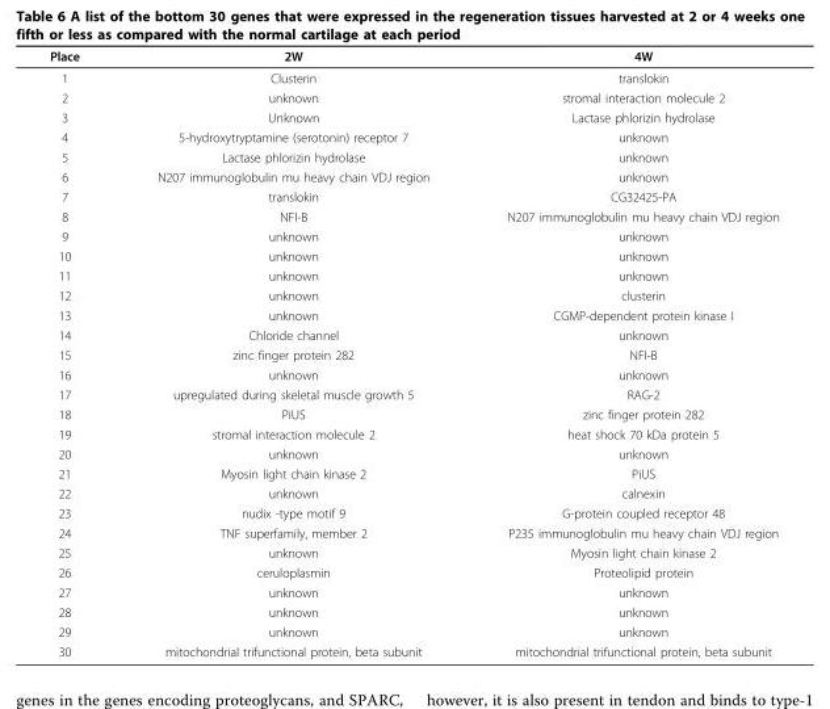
<table><thead><tr><td>Place</td><td>2W</td><td>4W</td></tr></thead><tbody><tr><td>1</td><td>Clusterin</td><td>translokin</td></tr><tr><td>2</td><td>unknown</td><td>stromal interaction molecule 2</td></tr><tr><td>3</td><td>Unknown</td><td>Lactase phlorizin hydrolase</td></tr><tr><td>4</td><td>5-hydroxytryptamine (serotonin) receptor 7</td><td>unknown</td></tr><tr><td>5</td><td>Lactase phlorizin hydrolase</td><td>unknown</td></tr><tr><td>6</td><td>N207 immunoglobulin mu heavy chain VDJ region</td><td>unknown</td></tr><tr><td>7</td><td>translokin</td><td>CG32425-PA</td></tr><tr><td>8</td><td>NFI-B</td><td>N207 immunoglobulin mu heavy chain VDJ region</td></tr><tr><td>9</td><td>unknown</td><td>unknown</td></tr><tr><td>10</td><td>unknown</td><td>unknown</td></tr><tr><td>11</td><td>unknown</td><td>unknown</td></tr><tr><td>12</td><td>unknown</td><td>clusterin</td></tr><tr><td>13</td><td>unknown</td><td>CGMP-dependent protein kinase I</td></tr><tr><td>14</td><td>Chloride channel</td><td>unknown</td></tr><tr><td>15</td><td>zinc finger protein 282</td><td>NFI-B</td></tr><tr><td>16</td><td>unknown</td><td>unknown</td></tr><tr><td>17</td><td>upregulated during skeletal muscle growth 5</td><td>RAG-2</td></tr><tr><td>18</td><td>PiUS</td><td>zinc finger protein 282</td></tr><tr><td>19</td><td>stromal interaction molecule 2</td><td>heat shock 70 kDa protein 5</td></tr><tr><td>20</td><td>unknown</td><td>unknown</td></tr><tr><td>21</td><td>Myosin light chain kinase 2</td><td>PiUS</td></tr><tr><td>22</td><td>unknown</td><td>calnexin</td></tr><tr><td>23</td><td>nudix -type motif 9</td><td>G-protein coupled receptor 48</td></tr><tr><td>24</td><td>TNF superfamily, member 2</td><td>P235 immunoglobulin mu heavy chain VDJ region</td></tr><tr><td>25</td><td>unknown</td><td>Myosin light chain kinase 2</td></tr><tr><td>26</td><td>ceruloplasmin</td><td>Proteolipid protein</td></tr><tr><td>27</td><td>unknown</td><td>unknown</td></tr><tr><td>28</td><td>unknown</td><td>unknown</td></tr><tr><td>29</td><td>unknown</td><td>unknown</td></tr><tr><td>30</td><td>mitochondrial trifunctional protein, beta subunit</td><td>mitochondrial trifunctional protein, beta subunit</td></tr></tbody></table>